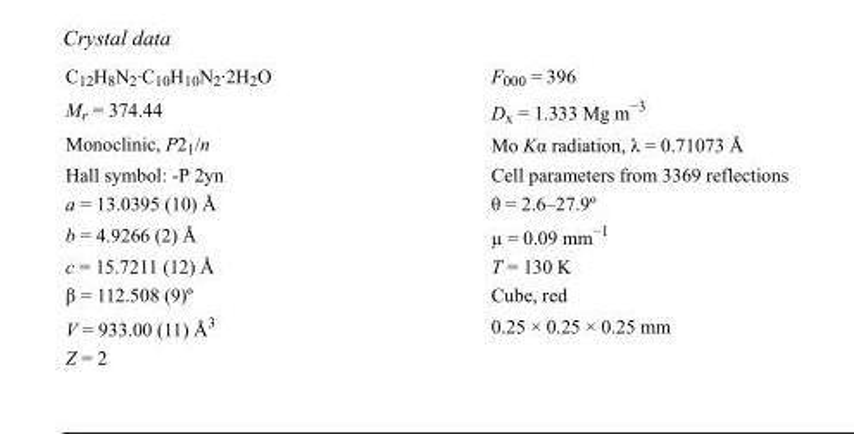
<table><tbody><tr><td>C<sub>12</sub>H<sub>8</sub>N<sub>2</sub>·C<sub>10</sub>H<sub>10</sub>N<sub>2</sub>·2H<sub>2</sub>O</td><td>F000 = 396</td></tr><tr><td>M<sub>r</sub> = 374.44</td><td>D<sub>x</sub> = 1.333 Mg m<sup>−3</sup></td></tr><tr><td>Monoclinic, P2<sub>1</sub>/n</td><td>Mo Kα radiation, λ = 0.71073 Å</td></tr><tr><td>Hall symbol: -P 2yn</td><td>Cell parameters from 3369 reflections</td></tr><tr><td>a = 13.0395 (10) Å</td><td>θ = 2.6–27.9º</td></tr><tr><td>b = 4.9266 (2) Å</td><td>µ = 0.09 mm<sup>−1</sup></td></tr><tr><td>c = 15.7211 (12) Å</td><td>T = 130 K</td></tr><tr><td>β = 112.508 (9)º</td><td>Cube, red</td></tr><tr><td>V = 933.00 (11) Å<sup>3</sup></td><td>0.25 × 0.25 × 0.25 mm</td></tr><tr><td>Z = 2</td><td></td></tr></tbody></table>